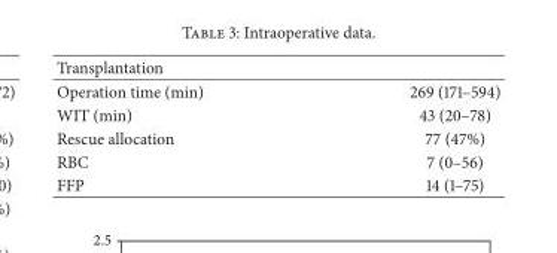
<table><thead><tr><td>Transplantation</td><td></td></tr></thead><tbody><tr><td>Operation time (min)</td><td>269 (171–594)</td></tr><tr><td>WIT (min)</td><td>43 (20–78)</td></tr><tr><td>Rescue allocation</td><td>77 (47%)</td></tr><tr><td>RBC</td><td>7 (0–56)</td></tr><tr><td>FFP</td><td>14 (1–75)</td></tr></tbody></table>